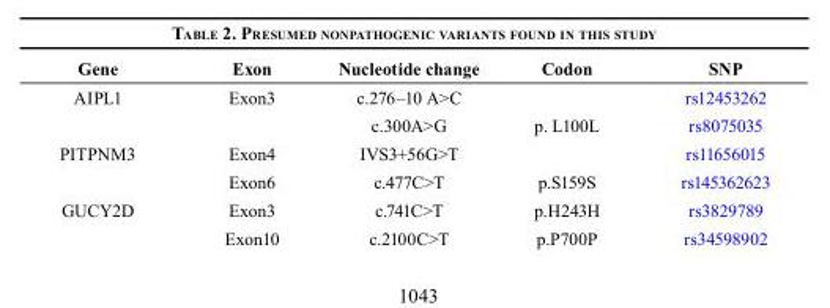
<table><thead><tr><td>Gene</td><td>Exon</td><td>Nucleotide change</td><td>Codon</td><td>SNP</td></tr></thead><tbody><tr><td rowspan="2">AIPL1</td><td>Exon3</td><td>c.276–10 A&gt;C</td><td></td><td>rs12453262</td></tr><tr><td></td><td>c.300A&gt;G</td><td>p. L100L</td><td>rs8075035</td></tr><tr><td rowspan="2">PITPNM3</td><td>Exon4</td><td>IVS3+56G&gt;T</td><td></td><td>rs11656015</td></tr><tr><td>Exon6</td><td>c.477C&gt;T</td><td>p.S159S</td><td>rs145362623</td></tr><tr><td rowspan="2">GUCY2D</td><td>Exon3</td><td>c.741C&gt;T</td><td>p.H243H</td><td>rs3829789</td></tr><tr><td>Exon10</td><td>c.2100C&gt;T</td><td>p.P700P</td><td>rs34598902</td></tr></tbody></table>